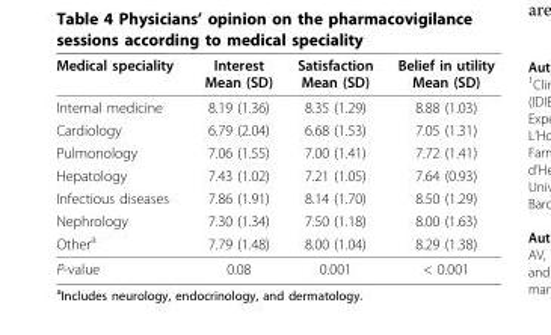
<table><thead><tr><td>Medical speciality</td><td>Interest Mean (SD)</td><td>Satisfaction Mean (SD)</td><td>Belief in utility Mean (SD)</td></tr></thead><tbody><tr><td>Internal medicine</td><td>8.19 (1.36)</td><td>8.35 (1.29)</td><td>8.88 (1.03)</td></tr><tr><td>Cardiology</td><td>6.79 (2.04)</td><td>6.68 (1.53)</td><td>7.05 (1.31)</td></tr><tr><td>Pulmonology</td><td>7.06 (1.55)</td><td>7.00 (1.41)</td><td>7.72 (1.41)</td></tr><tr><td>Hepatology</td><td>7.43 (1.02)</td><td>7.21 (1.05)</td><td>7.64 (0.93)</td></tr><tr><td>Infectious diseases</td><td>7.86 (1.91)</td><td>8.14 (1.70)</td><td>8.50 (1.29)</td></tr><tr><td>Nephrology</td><td>7.30 (1.34)</td><td>7.50 (1.18)</td><td>8.00 (1.63)</td></tr><tr><td>Other<sup>a</sup></td><td>7.79 (1.48)</td><td>8.00 (1.04)</td><td>8.29 (1.38)</td></tr><tr><td>P-value</td><td>0.08</td><td>0.001</td><td>&lt; 0.001</td></tr></tbody></table>